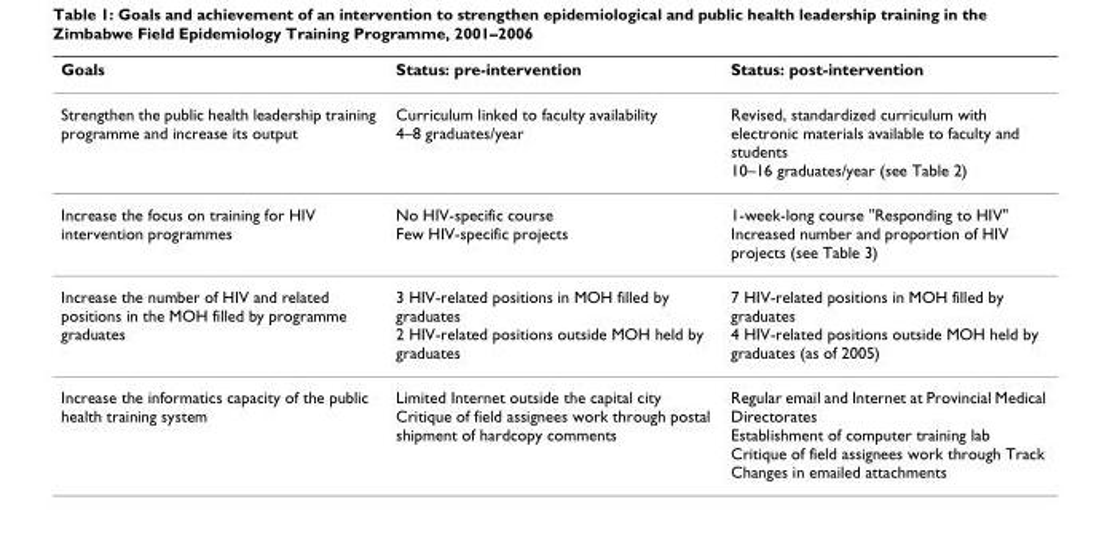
<table><thead><tr><td>Goals</td><td>Status: pre-intervention</td><td>Status: post-intervention</td></tr></thead><tbody><tr><td>Strengthen the public health leadership training programme and increase its output</td><td>Curriculum linked to faculty availability 4–8 graduates/year</td><td>Revised, standardized curriculum with electronic materials available to faculty and students 10–16 graduates/year (see Table 2)</td></tr><tr><td>Increase the focus on training for HIV intervention programmes</td><td>No HIV-specific course Few HIV-specific projects</td><td>1-week-long course &quot;Responding to HIV&quot; Increased number and proportion of HIV projects (see Table 3)</td></tr><tr><td>Increase the number of HIV and related positions in the MOH filled by programme graduates</td><td>3 HIV-related positions in MOH filled by graduates 2 HIV-related positions outside MOH held by graduates</td><td>7 HIV-related positions in MOH filled by graduates 4 HIV-related positions outside MOH held by graduates (as of 2005)</td></tr><tr><td>Increase the informatics capacity of the public health training system</td><td>Limited Internet outside the capital city Critique of field assignees work through postal shipment of hardcopy comments</td><td>Regular email and Internet at Provincial Medical Directorates Establishment of computer training lab Critique of field assignees work through Track Changes in emailed attachments</td></tr></tbody></table>